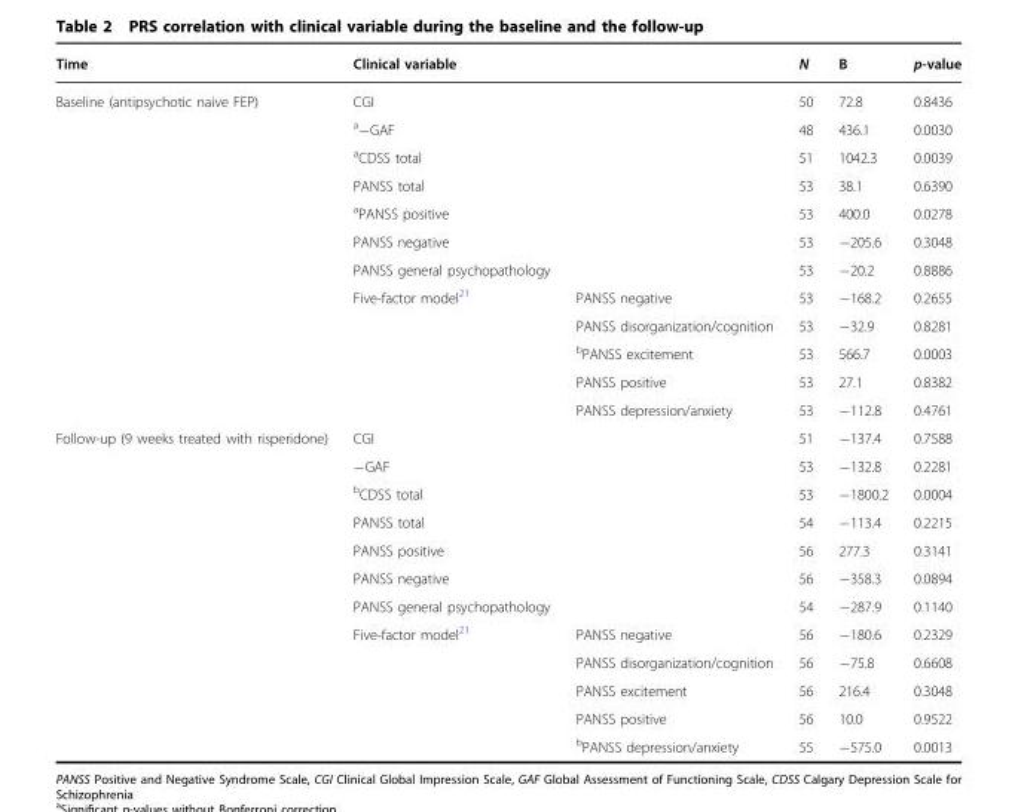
<table><thead><tr><td>Time</td><td colspan="2">Clinical variable</td><td>N</td><td>B</td><td>p-value</td></tr></thead><tbody><tr><td rowspan="12">Baseline (antipsychotic naive FEP)</td><td colspan="2">CGI</td><td>50</td><td>72.8</td><td>0.8436</td></tr><tr><td colspan="2"><sup>a</sup>−GAF</td><td>48</td><td>436.1</td><td>0.0030</td></tr><tr><td colspan="2"><sup>a</sup>CDSS total</td><td>51</td><td>1042.3</td><td>0.0039</td></tr><tr><td colspan="2">PANSS total</td><td>53</td><td>38.1</td><td>0.6390</td></tr><tr><td colspan="2"><sup>a</sup>PANSS positive</td><td>53</td><td>400.0</td><td>0.0278</td></tr><tr><td colspan="2">PANSS negative</td><td>53</td><td>−205.6</td><td>0.3048</td></tr><tr><td colspan="2">PANSS general psychopathology</td><td>53</td><td>−20.2</td><td>0.8886</td></tr><tr><td rowspan="5">Five-factor model<sup>21</sup></td><td>PANSS negative</td><td>53</td><td>−168.2</td><td>0.2655</td></tr><tr><td>PANSS disorganization/cognition</td><td>53</td><td>−32.9</td><td>0.8281</td></tr><tr><td><sup>b</sup>PANSS excitement</td><td>53</td><td>566.7</td><td>0.0003</td></tr><tr><td>PANSS positive</td><td>53</td><td>27.1</td><td>0.8382</td></tr><tr><td>PANSS depression/anxiety</td><td>53</td><td>−112.8</td><td>0.4761</td></tr><tr><td rowspan="12">Follow-up (9 weeks treated with risperidone)</td><td>CGI</td><td></td><td>51</td><td>−137.4</td><td>0.7588</td></tr><tr><td>−GAF</td><td></td><td>53</td><td>−132.8</td><td>0.2281</td></tr><tr><td><sup>b</sup>CDSS total</td><td></td><td>53</td><td>−1800.2</td><td>0.0004</td></tr><tr><td>PANSS total</td><td></td><td>54</td><td>−113.4</td><td>0.2215</td></tr><tr><td>PANSS positive</td><td></td><td>56</td><td>277.3</td><td>0.3141</td></tr><tr><td>PANSS negative</td><td></td><td>56</td><td>−358.3</td><td>0.0894</td></tr><tr><td>PANSS general psychopathology</td><td></td><td>54</td><td>−287.9</td><td>0.1140</td></tr><tr><td rowspan="5">Five-factor model<sup>21</sup></td><td>PANSS negative</td><td>56</td><td>−180.6</td><td>0.2329</td></tr><tr><td>PANSS disorganization/cognition</td><td>56</td><td>−75.8</td><td>0.6608</td></tr><tr><td>PANSS excitement</td><td>56</td><td>216.4</td><td>0.3048</td></tr><tr><td>PANSS positive</td><td>56</td><td>10.0</td><td>0.9522</td></tr><tr><td><sup>b</sup>PANSS depression/anxiety</td><td>55</td><td>−575.0</td><td>0.0013</td></tr></tbody></table>